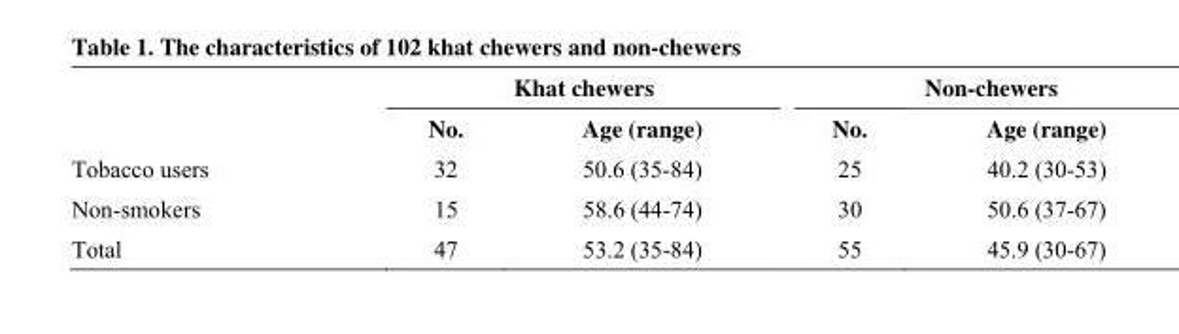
<table><thead><tr><td rowspan="2"></td><td colspan="2">Khat chewers</td><td colspan="2">Non-chewers</td></tr><tr><td>No.</td><td>Age (range)</td><td>No.</td><td>Age (range)</td></tr></thead><tbody><tr><td>Tobacco users</td><td>32</td><td>50.6 (35-84)</td><td>25</td><td>40.2 (30-53)</td></tr><tr><td>Non-smokers</td><td>15</td><td>58.6 (44-74)</td><td>30</td><td>50.6 (37-67)</td></tr><tr><td>Total</td><td>47</td><td>53.2 (35-84)</td><td>55</td><td>45.9 (30-67)</td></tr></tbody></table>